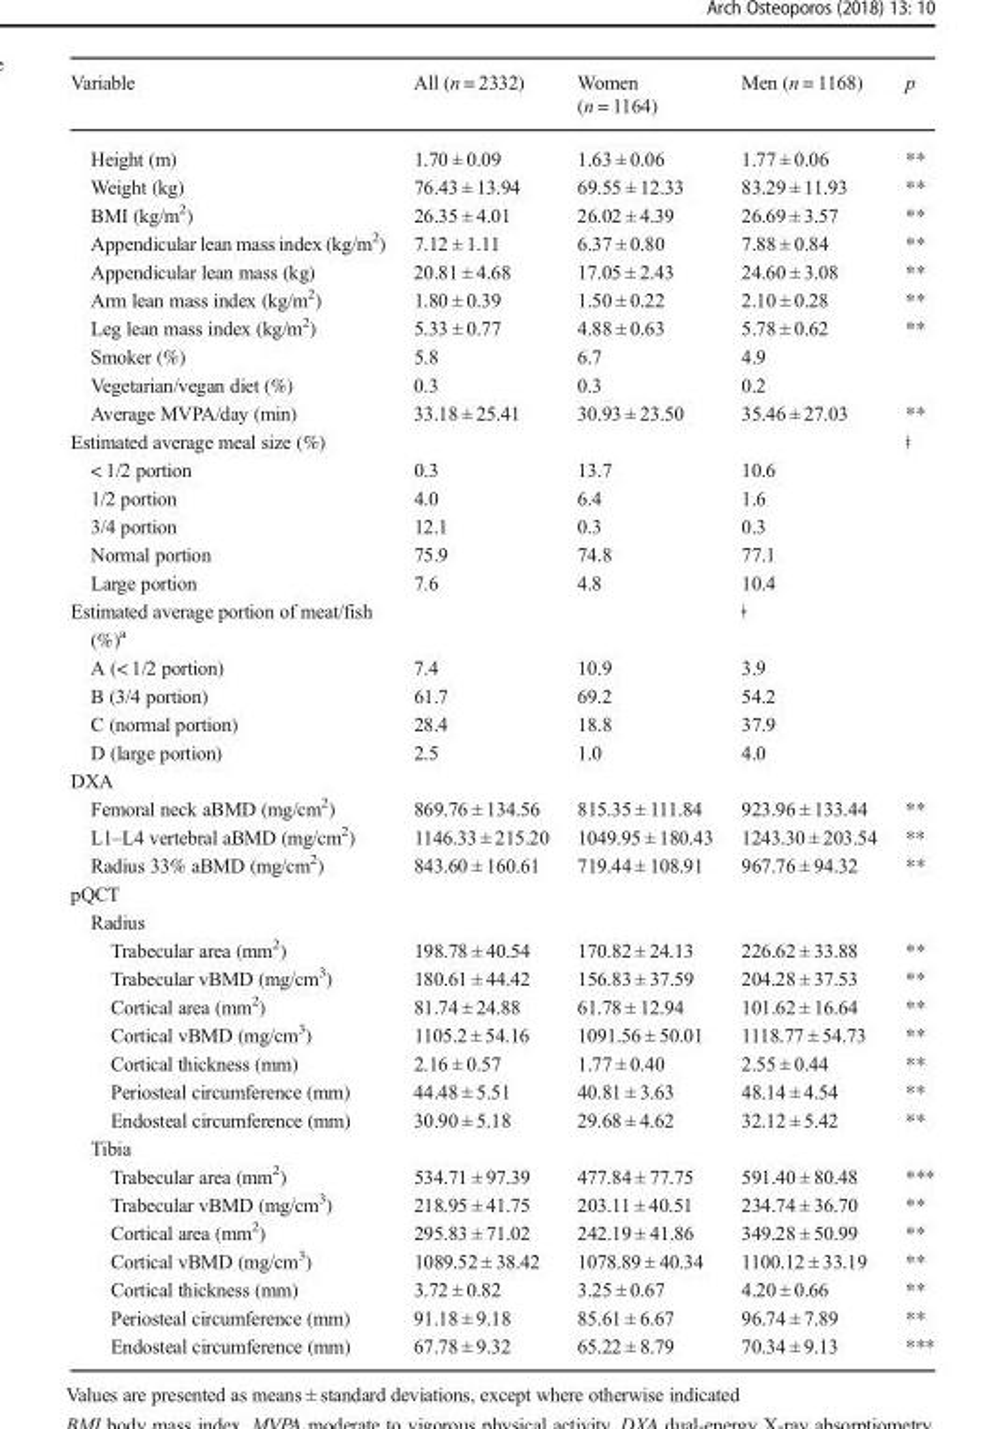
<table><thead><tr><td>Variable</td><td>All (n = 2332)</td><td>Women (n = 1164)</td><td>Men (n = 1168)</td><td>p</td></tr></thead><tbody><tr><td>Height (m)</td><td>1.70 ± 0.09</td><td>1.63 ± 0.06</td><td>1.77 ± 0.06</td><td>**</td></tr><tr><td>Weight (kg)</td><td>76.43 ± 13.94</td><td>69.55 ± 12.33</td><td>83.29 ± 11.93</td><td>**</td></tr><tr><td>BMI (kg/m<sup>2</sup>)</td><td>26.35 ± 4.01</td><td>26.02 ± 4.39</td><td>26.69 ± 3.57</td><td>**</td></tr><tr><td>Appendicular lean mass index (kg/m<sup>2</sup>)</td><td>7.12 ± 1.11</td><td>6.37 ± 0.80</td><td>7.88 ± 0.84</td><td>**</td></tr><tr><td>Appendicular lean mass (kg)</td><td>20.81 ± 4.68</td><td>17.05 ± 2.43</td><td>24.60 ± 3.08</td><td>**</td></tr><tr><td>Arm lean mass index (kg/m<sup>2</sup>)</td><td>1.80 ± 0.39</td><td>1.50 ± 0.22</td><td>2.10 ± 0.28</td><td>**</td></tr><tr><td>Leg lean mass index (kg/m<sup>2</sup>)</td><td>5.33 ± 0.77</td><td>4.88 ± 0.63</td><td>5.78 ± 0.62</td><td>**</td></tr><tr><td>Smoker (%)</td><td>5.8</td><td>6.7</td><td>4.9</td><td></td></tr><tr><td>Vegetarian/vegan diet (%)</td><td>0.3</td><td>0.3</td><td>0.2</td><td></td></tr><tr><td>Average MVPA/day (min)</td><td>33.18 ± 25.41</td><td>30.93 ± 23.50</td><td>35.46 ± 27.03</td><td>**</td></tr><tr><td>Estimated average meal size (%)</td><td></td><td></td><td></td><td>ǂ</td></tr><tr><td>&lt; 1/2 portion</td><td>0.3</td><td>13.7</td><td>10.6</td><td></td></tr><tr><td>1/2 portion</td><td>4.0</td><td>6.4</td><td>1.6</td><td></td></tr><tr><td>3/4 portion</td><td>12.1</td><td>0.3</td><td>0.3</td><td></td></tr><tr><td>Normal portion</td><td>75.9</td><td>74.8</td><td>77.1</td><td></td></tr><tr><td>Large portion</td><td>7.6</td><td>4.8</td><td>10.4</td><td></td></tr><tr><td>Estimated average portion of meat/fish (%)<sup>a</sup></td><td></td><td></td><td>ǂ</td><td></td></tr><tr><td>A (&lt; 1/2 portion)</td><td>7.4</td><td>10.9</td><td>3.9</td><td></td></tr><tr><td>B (3/4 portion)</td><td>61.7</td><td>69.2</td><td>54.2</td><td></td></tr><tr><td>C (normal portion)</td><td>28.4</td><td>18.8</td><td>37.9</td><td></td></tr><tr><td>D (large portion)</td><td>2.5</td><td>1.0</td><td>4.0</td><td></td></tr><tr><td colspan="5">DXA</td></tr><tr><td>Femoral neck aBMD (mg/cm<sup>2</sup>)</td><td>869.76 ± 134.56</td><td>815.35 ± 111.84</td><td>923.96 ± 133.44</td><td>**</td></tr><tr><td>L1–L4 vertebral aBMD (mg/cm<sup>2</sup>)</td><td>1146.33 ± 215.20</td><td>1049.95 ± 180.43</td><td>1243.30 ± 203.54</td><td>**</td></tr><tr><td>Radius 33% aBMD (mg/cm<sup>2</sup>)</td><td>843.60 ± 160.61</td><td>719.44 ± 108.91</td><td>967.76 ± 94.32</td><td>**</td></tr><tr><td colspan="5">pQCT</td></tr><tr><td colspan="5">Radius</td></tr><tr><td>Trabecular area (mm<sup>2</sup>)</td><td>198.78 ± 40.54</td><td>170.82 ± 24.13</td><td>226.62 ± 33.88</td><td>**</td></tr><tr><td>Trabecular vBMD (mg/cm<sup>3</sup>)</td><td>180.61 ± 44.42</td><td>156.83 ± 37.59</td><td>204.28 ± 37.53</td><td>**</td></tr><tr><td>Cortical area (mm<sup>2</sup>)</td><td>81.74 ± 24.88</td><td>61.78 ± 12.94</td><td>101.62 ± 16.64</td><td>**</td></tr><tr><td>Cortical vBMD (mg/cm<sup>3</sup>)</td><td>1105.2 ± 54.16</td><td>1091.56 ± 50.01</td><td>1118.77 ± 54.73</td><td>**</td></tr><tr><td>Cortical thickness (mm)</td><td>2.16 ± 0.57</td><td>1.77 ± 0.40</td><td>2.55 ± 0.44</td><td>**</td></tr><tr><td>Periosteal circumference (mm)</td><td>44.48 ± 5.51</td><td>40.81 ± 3.63</td><td>48.14 ± 4.54</td><td>**</td></tr><tr><td>Endosteal circumference (mm)</td><td>30.90 ± 5.18</td><td>29.68 ± 4.62</td><td>32.12 ± 5.42</td><td>**</td></tr><tr><td colspan="5">Tibia</td></tr><tr><td>Trabecular area (mm<sup>2</sup>)</td><td>534.71 ± 97.39</td><td>477.84 ± 77.75</td><td>591.40 ± 80.48</td><td>***</td></tr><tr><td>Trabecular vBMD (mg/cm<sup>3</sup>)</td><td>218.95 ± 41.75</td><td>203.11 ± 40.51</td><td>234.74 ± 36.70</td><td>**</td></tr><tr><td>Cortical area (mm<sup>2</sup>)</td><td>295.83 ± 71.02</td><td>242.19 ± 41.86</td><td>349.28 ± 50.99</td><td>**</td></tr><tr><td>Cortical vBMD (mg/cm<sup>3</sup>)</td><td>1089.52 ± 38.42</td><td>1078.89 ± 40.34</td><td>1100.12 ± 33.19</td><td>**</td></tr><tr><td>Cortical thickness (mm)</td><td>3.72 ± 0.82</td><td>3.25 ± 0.67</td><td>4.20 ± 0.66</td><td>**</td></tr><tr><td>Periosteal circumference (mm)</td><td>91.18 ± 9.18</td><td>85.61 ± 6.67</td><td>96.74 ± 7.89</td><td>**</td></tr><tr><td>Endosteal circumference (mm)</td><td>67.78 ± 9.32</td><td>65.22 ± 8.79</td><td>70.34 ± 9.13</td><td>***</td></tr></tbody></table>